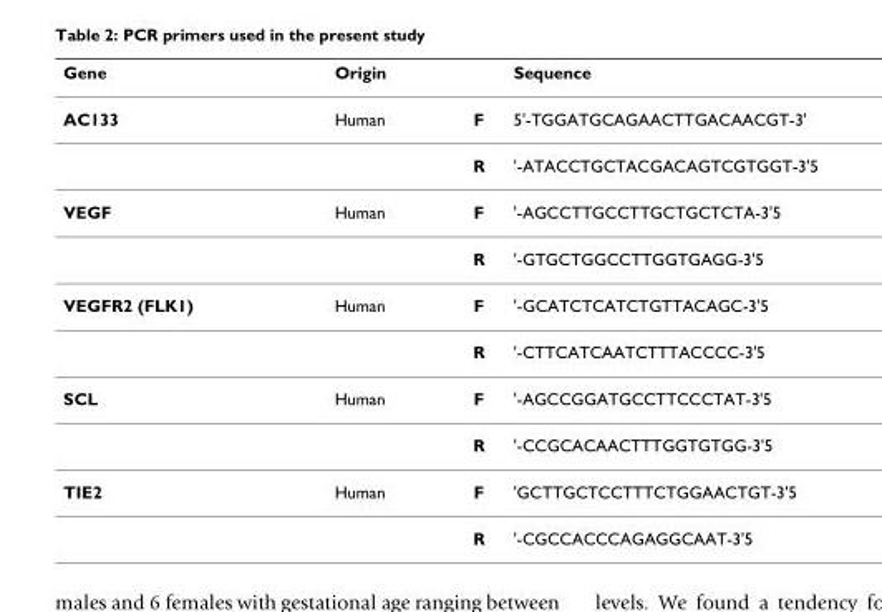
<table><thead><tr><td>Gene</td><td>Origin</td><td></td><td>Sequence</td></tr></thead><tbody><tr><td rowspan="2">AC133</td><td>Human</td><td>F</td><td>5&#x27;-TGGATGCAGAACTTGACAACGT-3&#x27;</td></tr><tr><td></td><td>R</td><td>&#x27;-ATACCTGCTACGACAGTCGTGGT-3&#x27;5</td></tr><tr><td rowspan="2">VEGF</td><td>Human</td><td>F</td><td>&#x27;-AGCCTTGCCTTGCTGCTCTA-3&#x27;5</td></tr><tr><td></td><td>R</td><td>&#x27;-GTGCTGGCCTTGGTGAGG-3&#x27;5</td></tr><tr><td rowspan="2">VEGFR2 (FLK1)</td><td>Human</td><td>F</td><td>&#x27;-GCATCTCATCTGTTACAGC-3&#x27;5</td></tr><tr><td></td><td>R</td><td>&#x27;-CTTCATCAATCTTTACCCC-3&#x27;5</td></tr><tr><td rowspan="2">SCL</td><td>Human</td><td>F</td><td>&#x27;-AGCCGGATGCCTTCCCTAT-3&#x27;5</td></tr><tr><td></td><td>R</td><td>&#x27;-CCGCACAACTTTGGTGTGG-3&#x27;5</td></tr><tr><td rowspan="2">TIE2</td><td>Human</td><td>F</td><td>&#x27;GCTTGCTCCTTTCTGGAACTGT-3&#x27;5</td></tr><tr><td></td><td>R</td><td>&#x27;-CGCCACCCAGAGGCAAT-3&#x27;5</td></tr></tbody></table>